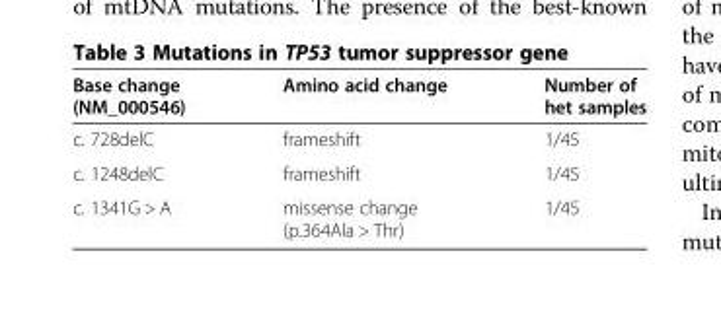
<table><thead><tr><td>Base change (NM_000546)</td><td>Amino acid change</td><td>Number of het samples</td></tr></thead><tbody><tr><td>c. 728delC</td><td>frameshift</td><td>1/45</td></tr><tr><td>c. 1248delC</td><td>frameshift</td><td>1/45</td></tr><tr><td>c. 1341G &gt; A</td><td>missense change (p.364Ala &gt; Thr)</td><td>1/45</td></tr></tbody></table>